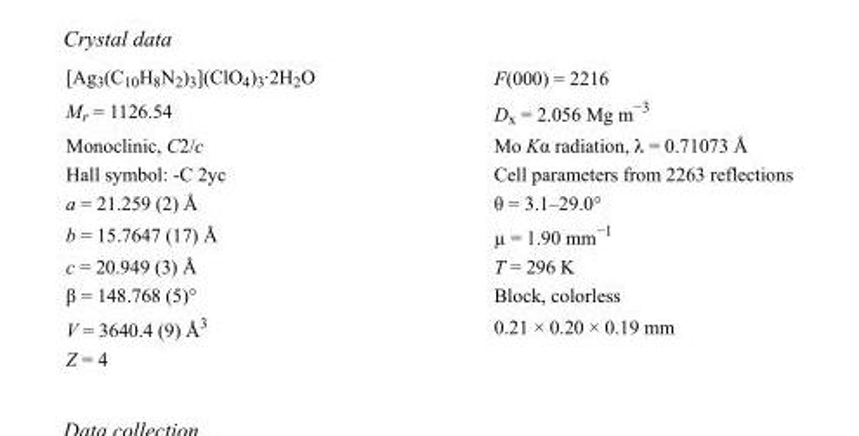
<table><tbody><tr><td>[Ag<sub>3</sub>(C<sub>10</sub>H<sub>8</sub>N<sub>2</sub>)<sub>3</sub>](ClO<sub>4</sub>)<sub>3</sub>·2H<sub>2</sub>O</td><td>F(000) = 2216</td></tr><tr><td>M<sub>r</sub> = 1126.54</td><td>D<sub>x</sub> = 2.056 Mg m<sup>−3</sup></td></tr><tr><td>Monoclinic, C2/c</td><td>Mo Kα radiation, λ = 0.71073 Å</td></tr><tr><td>Hall symbol: -C 2yc</td><td>Cell parameters from 2263 reflections</td></tr><tr><td>a = 21.259 (2) Å</td><td>θ = 3.1–29.0°</td></tr><tr><td>b = 15.7647 (17) Å</td><td>µ = 1.90 mm<sup>−1</sup></td></tr><tr><td>c = 20.949 (3) Å</td><td>T = 296 K</td></tr><tr><td>β = 148.768 (5)°</td><td>Block, colorless</td></tr><tr><td>V = 3640.4 (9) Å<sup>3</sup></td><td>0.21 × 0.20 × 0.19 mm</td></tr><tr><td>Z = 4</td><td></td></tr></tbody></table>